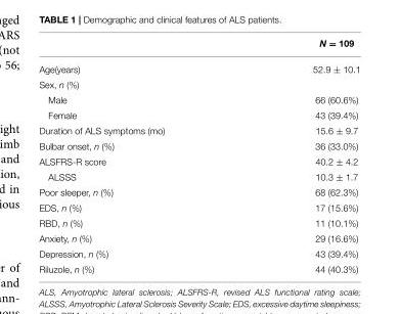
<table><thead><tr><td></td><td>N = 109</td></tr></thead><tbody><tr><td>Age(years)</td><td>52.9 ± 10.1</td></tr><tr><td colspan="2">Sex, n (%)</td></tr><tr><td>Male</td><td>66 (60.6%)</td></tr><tr><td>Female</td><td>43 (39.4%)</td></tr><tr><td>Duration of ALS symptoms (mo)</td><td>15.6 ± 9.7</td></tr><tr><td>Bulbar onset, n (%)</td><td>36 (33.0%)</td></tr><tr><td>ALSFRS-R score</td><td>40.2 ± 4.2</td></tr><tr><td>ALSSS</td><td>10.3 ± 1.7</td></tr><tr><td>Poor sleeper, n (%)</td><td>68 (62.3%)</td></tr><tr><td>EDS, n (%)</td><td>17 (15.6%)</td></tr><tr><td>RBD, n (%)</td><td>11 (10.1%)</td></tr><tr><td>Anxiety, n (%)</td><td>29 (16.6%)</td></tr><tr><td>Depression, n (%)</td><td>43 (39.4%)</td></tr><tr><td>Riluzole, n (%)</td><td>44 (40.3%)</td></tr></tbody></table>